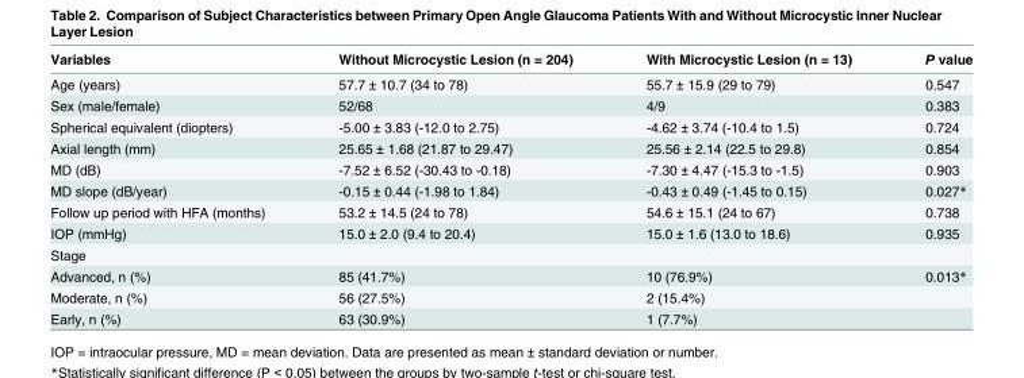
<table><thead><tr><td>Variables</td><td>Without Microcystic Lesion (n = 204)</td><td>With Microcystic Lesion (n = 13)</td><td>P value</td></tr></thead><tbody><tr><td>Age (years)</td><td>57.7 ± 10.7 (34 to 78)</td><td>55.7 ± 15.9 (29 to 79)</td><td>0.547</td></tr><tr><td>Sex (male/female)</td><td>52/68</td><td>4/9</td><td>0.383</td></tr><tr><td>Spherical equivalent (diopters)</td><td>-5.00 ± 3.83 (-12.0 to 2.75)</td><td>-4.62 ± 3.74 (-10.4 to 1.5)</td><td>0.724</td></tr><tr><td>Axial length (mm)</td><td>25.65 ± 1.68 (21.87 to 29.47)</td><td>25.56 ± 2.14 (22.5 to 29.8)</td><td>0.854</td></tr><tr><td>MD (dB)</td><td>-7.52 ± 6.52 (-30.43 to -0.18)</td><td>-7.30 ± 4.47 (-15.3 to -1.5)</td><td>0.903</td></tr><tr><td>MD slope (dB/year)</td><td>-0.15 ± 0.44 (-1.98 to 1.84)</td><td>-0.43 ± 0.49 (-1.45 to 0.15)</td><td>0.027*</td></tr><tr><td>Follow up period with HFA (months)</td><td>53.2 ± 14.5 (24 to 78)</td><td>54.6 ± 15.1 (24 to 67)</td><td>0.738</td></tr><tr><td>IOP (mmHg)</td><td>15.0 ± 2.0 (9.4 to 20.4)</td><td>15.0 ± 1.6 (13.0 to 18.6)</td><td>0.935</td></tr><tr><td colspan="4">Stage</td></tr><tr><td>Advanced, n (%)</td><td>85 (41.7%)</td><td>10 (76.9%)</td><td>0.013*</td></tr><tr><td>Moderate, n (%)</td><td>56 (27.5%)</td><td>2 (15.4%)</td><td></td></tr><tr><td>Early, n (%)</td><td>63 (30.9%)</td><td>1 (7.7%)</td><td></td></tr></tbody></table>